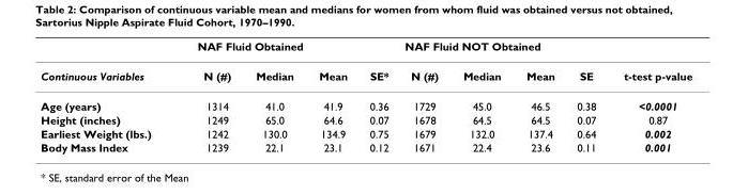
<table><thead><tr><td rowspan="2">Continuous Variables</td><td colspan="4">NAF Fluid Obtained</td><td colspan="4">NAF Fluid NOT Obtained</td><td rowspan="2">t-test p-value</td></tr><tr><td>N (#)</td><td>Median</td><td>Mean</td><td>SE*</td><td>N (#)</td><td>Median</td><td>Mean</td><td>SE</td></tr></thead><tbody><tr><td>Age (years)</td><td>1314</td><td>41.0</td><td>41.9</td><td>0.36</td><td>1729</td><td>45.0</td><td>46.5</td><td>0.38</td><td>&lt;0.0001</td></tr><tr><td>Height (inches)</td><td>1249</td><td>65.0</td><td>64.6</td><td>0.07</td><td>1678</td><td>64.5</td><td>64.5</td><td>0.07</td><td>0.87</td></tr><tr><td>Earliest Weight (lbs.)</td><td>1242</td><td>130.0</td><td>134.9</td><td>0.75</td><td>1679</td><td>132.0</td><td>137.4</td><td>0.64</td><td>0.002</td></tr><tr><td>Body Mass Index</td><td>1239</td><td>22.1</td><td>23.1</td><td>0.12</td><td>1671</td><td>22.4</td><td>23.6</td><td>0.11</td><td>0.001</td></tr></tbody></table>